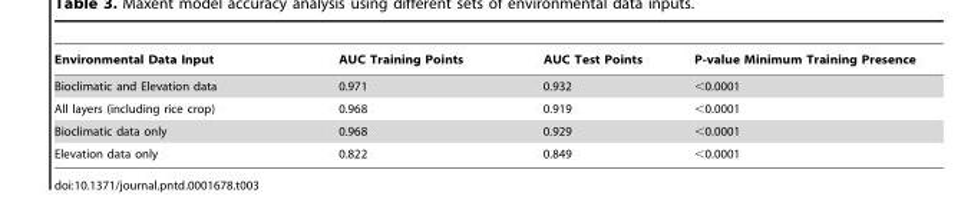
<table><thead><tr><td>Environmental Data Input</td><td>AUC Training Points</td><td>AUC Test Points</td><td>P-value Minimum Training Presence</td></tr></thead><tbody><tr><td>Bioclimatic and Elevation data</td><td>0.971</td><td>0.932</td><td>&lt;0.0001</td></tr><tr><td>All layers (including rice crop)</td><td>0.968</td><td>0.919</td><td>&lt;0.0001</td></tr><tr><td>Bioclimatic data only</td><td>0.968</td><td>0.929</td><td>&lt;0.0001</td></tr><tr><td>Elevation data only</td><td>0.822</td><td>0.849</td><td>&lt;0.0001</td></tr></tbody></table>